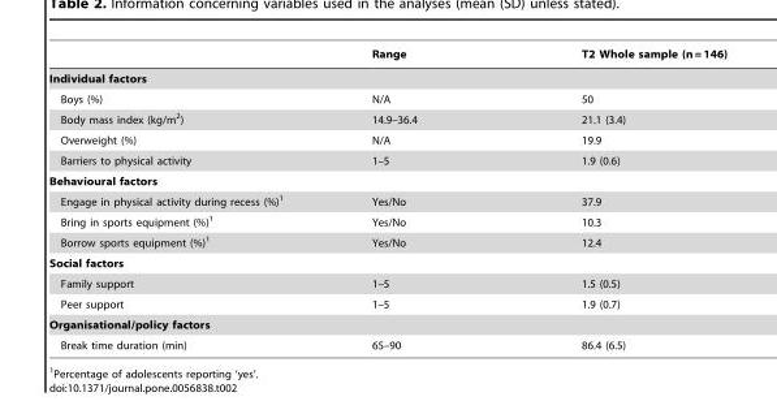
<table><thead><tr><td></td><td>Range</td><td>T2 Whole sample (n = 146)</td></tr></thead><tbody><tr><td colspan="3">Individual factors</td></tr><tr><td>Boys (%)</td><td>N/A</td><td>50</td></tr><tr><td>Body mass index (kg/m<sup>2</sup>)</td><td>14.9–36.4</td><td>21.1 (3.4)</td></tr><tr><td>Overweight (%)</td><td>N/A</td><td>19.9</td></tr><tr><td>Barriers to physical activity</td><td>1–5</td><td>1.9 (0.6)</td></tr><tr><td colspan="3">Behavioural factors</td></tr><tr><td>Engage in physical activity during recess (%)<sup>1</sup></td><td>Yes/No</td><td>37.9</td></tr><tr><td>Bring in sports equipment (%)<sup>1</sup></td><td>Yes/No</td><td>10.3</td></tr><tr><td>Borrow sports equipment (%)<sup>1</sup></td><td>Yes/No</td><td>12.4</td></tr><tr><td colspan="3">Social factors</td></tr><tr><td>Family support</td><td>1–5</td><td>1.5 (0.5)</td></tr><tr><td>Peer support</td><td>1–5</td><td>1.9 (0.7)</td></tr><tr><td colspan="3">Organisational/policy factors</td></tr><tr><td>Break time duration (min)</td><td>65–90</td><td>86.4 (6.5)</td></tr></tbody></table>